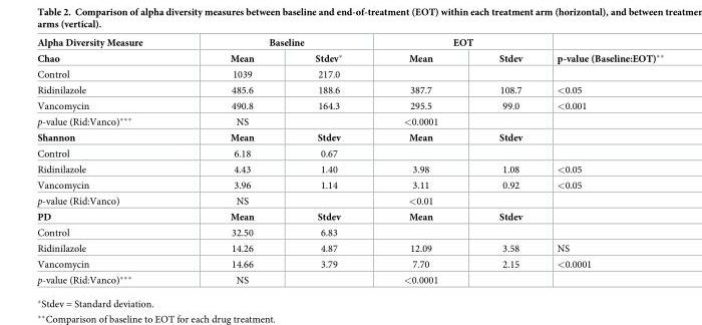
<table><thead><tr><td rowspan="2">Alpha Diversity Measure Chao</td><td colspan="2">Baseline</td><td colspan="2">EOT</td><td rowspan="2">p-value (Baseline:EOT)**</td></tr><tr><td>Mean</td><td>Stdev*</td><td>Mean</td><td>Stdev</td></tr></thead><tbody><tr><td>Control</td><td>1039</td><td>217.0</td><td></td><td></td><td></td></tr><tr><td>Ridinilazole</td><td>485.6</td><td>188.6</td><td>387.7</td><td>108.7</td><td>&lt;0.05</td></tr><tr><td>Vancomycin</td><td>490.8</td><td>164.3</td><td>295.5</td><td>99.0</td><td>&lt;0.001</td></tr><tr><td>p-value (Rid:Vanco)***</td><td>NS</td><td></td><td>&lt;0.0001</td><td></td><td></td></tr><tr><td>Shannon</td><td>Mean</td><td>Stdev</td><td>Mean</td><td>Stdev</td><td></td></tr><tr><td>Control</td><td>6.18</td><td>0.67</td><td></td><td></td><td></td></tr><tr><td>Ridinilazole</td><td>4.43</td><td>1.40</td><td>3.98</td><td>1.08</td><td>&lt;0.05</td></tr><tr><td>Vancomycin</td><td>3.96</td><td>1.14</td><td>3.11</td><td>0.92</td><td>&lt;0.05</td></tr><tr><td>p-value (Rid:Vanco)</td><td>NS</td><td></td><td>&lt;0.01</td><td></td><td></td></tr><tr><td>PD</td><td>Mean</td><td>Stdev</td><td>Mean</td><td>Stdev</td><td></td></tr><tr><td>Control</td><td>32.50</td><td>6.83</td><td></td><td></td><td></td></tr><tr><td>Ridinilazole</td><td>14.26</td><td>4.87</td><td>12.09</td><td>3.58</td><td>NS</td></tr><tr><td>Vancomycin</td><td>14.66</td><td>3.79</td><td>7.70</td><td>2.15</td><td>&lt;0.0001</td></tr><tr><td>p-value (Rid:Vanco)***</td><td>NS</td><td></td><td>&lt;0.0001</td><td></td><td></td></tr></tbody></table>